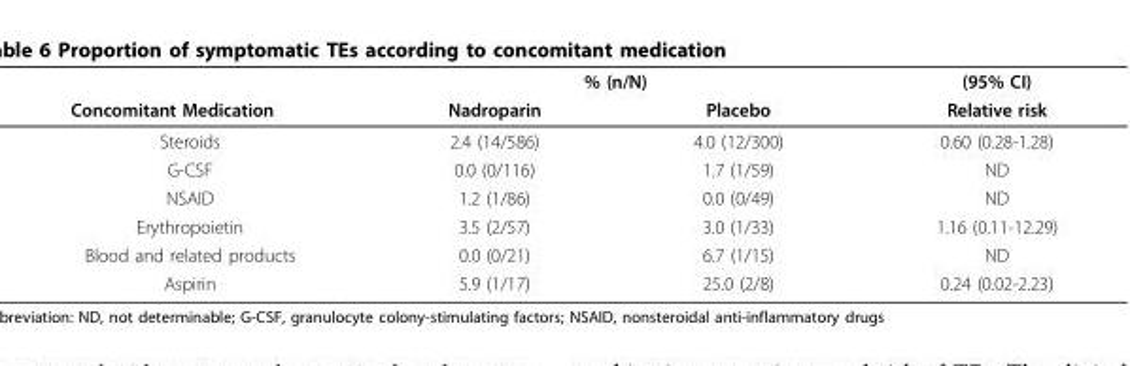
<table><thead><tr><td rowspan="2">Concomitant Medication</td><td colspan="2">% (n/N)</td><td rowspan="2">(95% CI) Relative risk</td></tr><tr><td>Nadroparin</td><td>Placebo</td></tr></thead><tbody><tr><td>Steroids</td><td>2.4 (14/586)</td><td>4.0 (12/300)</td><td>0.60 (0.28-1.28)</td></tr><tr><td>G-CSF</td><td>0.0 (0/116)</td><td>1.7 (1/59)</td><td>ND</td></tr><tr><td>NSAID</td><td>1.2 (1/86)</td><td>0.0 (0/49)</td><td>ND</td></tr><tr><td>Erythropoietin</td><td>3.5 (2/57)</td><td>3.0 (1/33)</td><td>1.16 (0.11-12.29)</td></tr><tr><td>Blood and related products</td><td>0.0 (0/21)</td><td>6.7 (1/15)</td><td>ND</td></tr><tr><td>Aspirin</td><td>5.9 (1/17)</td><td>25.0 (2/8)</td><td>0.24 (0.02-2.23)</td></tr></tbody></table>